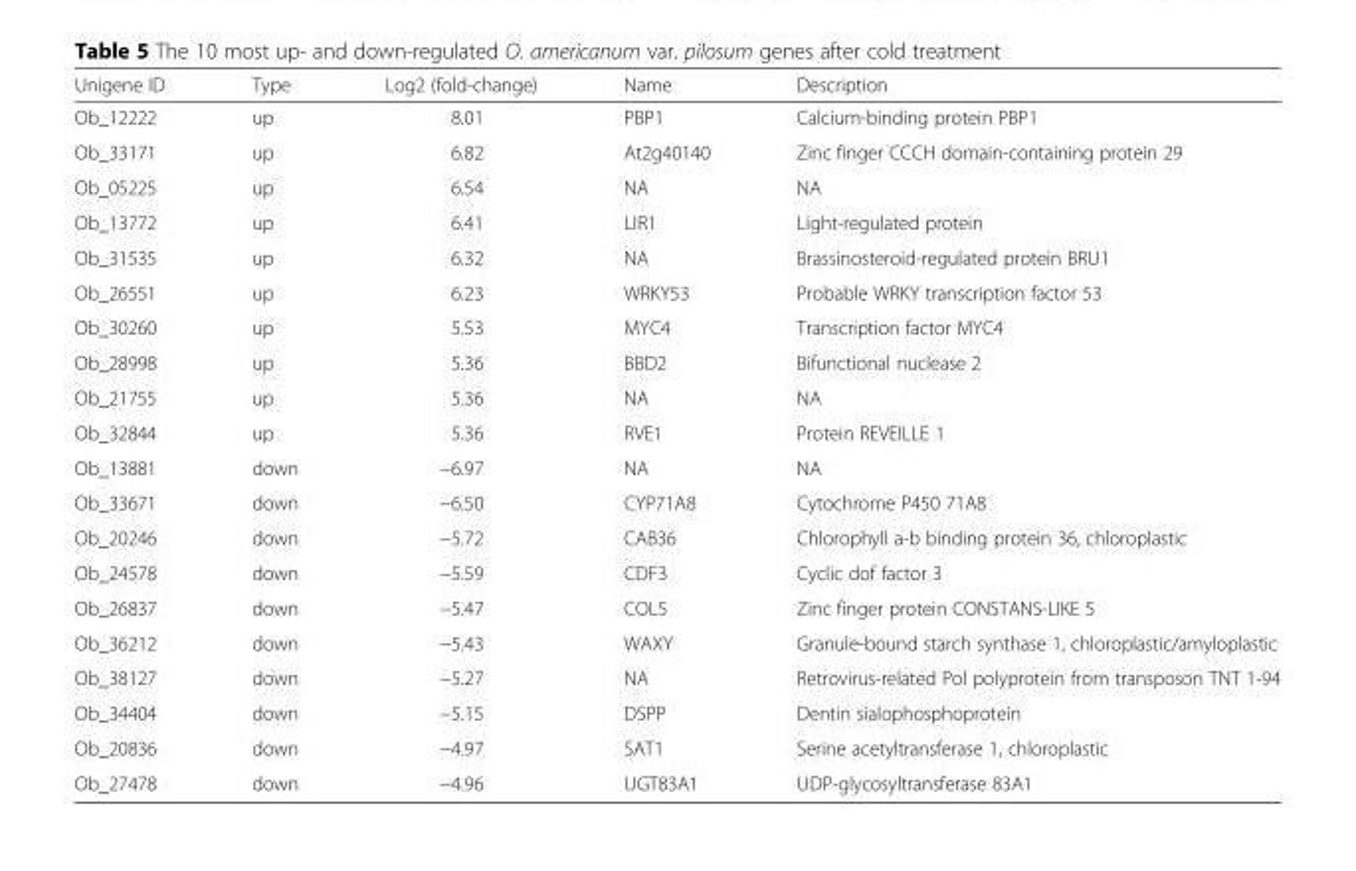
<table><thead><tr><td>Unigene ID</td><td>Type</td><td>Log2 (fold-change)</td><td>Name</td><td>Description</td></tr></thead><tbody><tr><td>Ob_12222</td><td>up</td><td>8.01</td><td>PBP1</td><td>Calcium-binding protein PBP1</td></tr><tr><td>Ob_33171</td><td>up</td><td>6.82</td><td>At2g40140</td><td>Zinc finger CCCH domain-containing protein 29</td></tr><tr><td>Ob_05225</td><td>up</td><td>6.54</td><td>NA</td><td>NA</td></tr><tr><td>Ob_13772</td><td>up</td><td>6.41</td><td>LIR1</td><td>Light-regulated protein</td></tr><tr><td>Ob_31535</td><td>up</td><td>6.32</td><td>NA</td><td>Brassinosteroid-regulated protein BRU1</td></tr><tr><td>Ob_26551</td><td>up</td><td>6.23</td><td>WRKY53</td><td>Probable WRKY transcription factor 53</td></tr><tr><td>Ob_30260</td><td>up</td><td>5.53</td><td>MYC4</td><td>Transcription factor MYC4</td></tr><tr><td>Ob_28998</td><td>up</td><td>5.36</td><td>BBD2</td><td>Bifunctional nuclease 2</td></tr><tr><td>Ob_21755</td><td>up</td><td>5.36</td><td>NA</td><td>NA</td></tr><tr><td>Ob_32844</td><td>up</td><td>5.36</td><td>RVE1</td><td>Protein REVEILLE 1</td></tr><tr><td>Ob_13881</td><td>down</td><td>−6.97</td><td>NA</td><td>NA</td></tr><tr><td>Ob_33671</td><td>down</td><td>−6.50</td><td>CYP71A8</td><td>Cytochrome P450 71A8</td></tr><tr><td>Ob_20246</td><td>down</td><td>−5.72</td><td>CAB36</td><td>Chlorophyll a-b binding protein 36, chloroplastic</td></tr><tr><td>Ob_24578</td><td>down</td><td>−5.59</td><td>CDF3</td><td>Cyclic dof factor 3</td></tr><tr><td>Ob_26837</td><td>down</td><td>−5.47</td><td>COL5</td><td>Zinc finger protein CONSTANS-LIKE 5</td></tr><tr><td>Ob_36212</td><td>down</td><td>−5.43</td><td>WAXY</td><td>Granule-bound starch synthase 1, chloroplastic/amyloplastic</td></tr><tr><td>Ob_38127</td><td>down</td><td>−5.27</td><td>NA</td><td>Retrovirus-related Pol polyprotein from transposon TNT 1-94</td></tr><tr><td>Ob_34404</td><td>down</td><td>−5.15</td><td>DSPP</td><td>Dentin sialophosphoprotein</td></tr><tr><td>Ob_20836</td><td>down</td><td>−4.97</td><td>SAT1</td><td>Serine acetyltransferase 1, chloroplastic</td></tr><tr><td>Ob_27478</td><td>down</td><td>−4.96</td><td>UGT83A1</td><td>UDP-glycosyltransferase 83A1</td></tr></tbody></table>